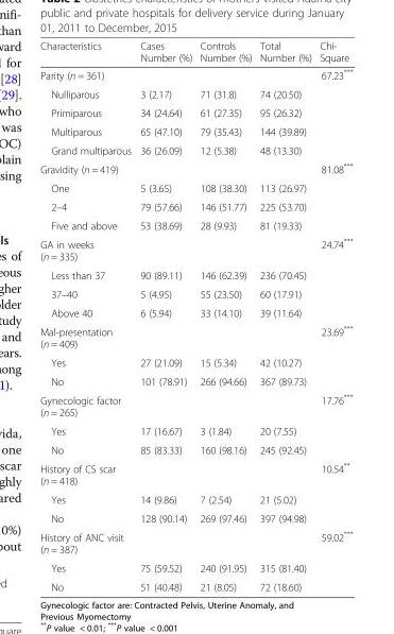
<table><thead><tr><td>Characteristics</td><td>Cases Number (%)</td><td>Controls Number (%)</td><td>Total Number (%)</td><td>Chi- Square</td></tr></thead><tbody><tr><td>Parity (n = 361)</td><td></td><td></td><td></td><td>67.23***</td></tr><tr><td>Nulliparous</td><td>3 (2.17)</td><td>71 (31.8)</td><td>74 (20.50)</td><td></td></tr><tr><td>Primiparous</td><td>34 (24.64)</td><td>61 (27.35)</td><td>95 (26.32)</td><td></td></tr><tr><td>Multiparous</td><td>65 (47.10)</td><td>79 (35.43)</td><td>144 (39.89)</td><td></td></tr><tr><td>Grand multiparous</td><td>36 (26.09)</td><td>12 (5.38)</td><td>48 (13.30)</td><td></td></tr><tr><td>Gravidity (n = 419)</td><td></td><td></td><td></td><td>81.08***</td></tr><tr><td>One</td><td>5 (3.65)</td><td>108 (38.30)</td><td>113 (26.97)</td><td></td></tr><tr><td>2–4</td><td>79 (57.66)</td><td>146 (51.77)</td><td>225 (53.70)</td><td></td></tr><tr><td>Five and above</td><td>53 (38.69)</td><td>28 (9.93)</td><td>81 (19.33)</td><td></td></tr><tr><td>GA in weeks (n = 335)</td><td></td><td></td><td></td><td>24.74***</td></tr><tr><td>Less than 37</td><td>90 (89.11)</td><td>146 (62.39)</td><td>236 (70.45)</td><td></td></tr><tr><td>37–40</td><td>5 (4.95)</td><td>55 (23.50)</td><td>60 (17.91)</td><td></td></tr><tr><td>Above 40</td><td>6 (5.94)</td><td>33 (14.10)</td><td>39 (11.64)</td><td></td></tr><tr><td>Mal-presentation (n = 409)</td><td></td><td></td><td></td><td>23.69***</td></tr><tr><td>Yes</td><td>27 (21.09)</td><td>15 (5.34)</td><td>42 (10.27)</td><td></td></tr><tr><td>No</td><td>101 (78.91)</td><td>266 (94.66)</td><td>367 (89.73)</td><td></td></tr><tr><td>Gynecologic factor (n = 265)</td><td></td><td></td><td></td><td>17.76***</td></tr><tr><td>Yes</td><td>17 (16.67)</td><td>3 (1.84)</td><td>20 (7.55)</td><td></td></tr><tr><td>No</td><td>85 (83.33)</td><td>160 (98.16)</td><td>245 (92.45)</td><td></td></tr><tr><td>History of CS scar (n = 418)</td><td></td><td></td><td></td><td>10.54**</td></tr><tr><td>Yes</td><td>14 (9.86)</td><td>7 (2.54)</td><td>21 (5.02)</td><td></td></tr><tr><td>No</td><td>128 (90.14)</td><td>269 (97.46)</td><td>397 (94.98)</td><td></td></tr><tr><td>History of ANC visit (n = 387)</td><td></td><td></td><td></td><td>59.02***</td></tr><tr><td>Yes</td><td>75 (59.52)</td><td>240 (91.95)</td><td>315 (81.40)</td><td></td></tr><tr><td>No</td><td>51 (40.48)</td><td>21 (8.05)</td><td>72 (18.60)</td><td></td></tr></tbody></table>